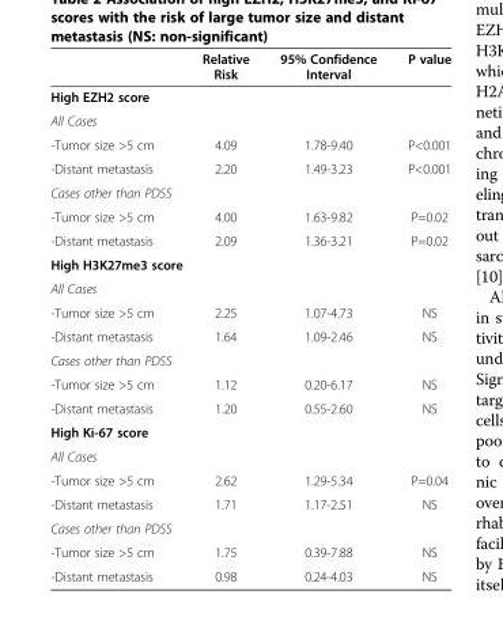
<table><thead><tr><td></td><td>Relative Risk</td><td>95% Confidence Interval</td><td>P value</td></tr></thead><tbody><tr><td colspan="4">High EZH2 score</td></tr><tr><td colspan="4">All Cases</td></tr><tr><td>-Tumor size &gt;5 cm</td><td>4.09</td><td>1.78-9.40</td><td>P&lt;0.001</td></tr><tr><td>-Distant metastasis</td><td>2.20</td><td>1.49-3.23</td><td>P&lt;0.001</td></tr><tr><td colspan="4">Cases other than PDSS</td></tr><tr><td>-Tumor size &gt;5 cm</td><td>4.00</td><td>1.63-9.82</td><td>P=0.02</td></tr><tr><td>-Distant metastasis</td><td>2.09</td><td>1.36-3.21</td><td>P=0.02</td></tr><tr><td colspan="4">High H3K27me3 score</td></tr><tr><td colspan="4">All Cases</td></tr><tr><td>-Tumor size &gt;5 cm</td><td>2.25</td><td>1.07-4.73</td><td>NS</td></tr><tr><td>-Distant metastasis</td><td>1.64</td><td>1.09-2.46</td><td>NS</td></tr><tr><td colspan="4">Cases other than PDSS</td></tr><tr><td>-Tumor size &gt;5 cm</td><td>1.12</td><td>0.20-6.17</td><td>NS</td></tr><tr><td>-Distant metastasis</td><td>1.20</td><td>0.55-2.60</td><td>NS</td></tr><tr><td colspan="4">High Ki-67 score</td></tr><tr><td colspan="4">All Cases</td></tr><tr><td>-Tumor size &gt;5 cm</td><td>2.62</td><td>1.29-5.34</td><td>P=0.04</td></tr><tr><td>-Distant metastasis</td><td>1.71</td><td>1.17-2.51</td><td>NS</td></tr><tr><td colspan="4">Cases other than PDSS</td></tr><tr><td>-Tumor size &gt;5 cm</td><td>1.75</td><td>0.39-7.88</td><td>NS</td></tr><tr><td>-Distant metastasis</td><td>0.98</td><td>0.24-4.03</td><td>NS</td></tr></tbody></table>